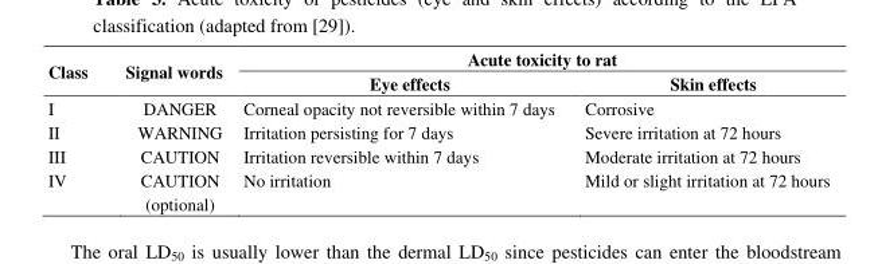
<table><thead><tr><td rowspan="2">Class</td><td rowspan="2">Signal words</td><td colspan="2">Acute toxicity to rat</td></tr><tr><td>Eye effects</td><td>Skin effects</td></tr></thead><tbody><tr><td>I</td><td>DANGER</td><td>Corneal opacity not reversible within 7 days</td><td>Corrosive</td></tr><tr><td>II</td><td>WARNING</td><td>Irritation persisting for 7 days</td><td>Severe irritation at 72 hours</td></tr><tr><td>III</td><td>CAUTION</td><td>Irritation reversible within 7 days</td><td>Moderate irritation at 72 hours</td></tr><tr><td>IV</td><td>CAUTION (optional)</td><td>No irritation</td><td>Mild or slight irritation at 72 hours</td></tr></tbody></table>